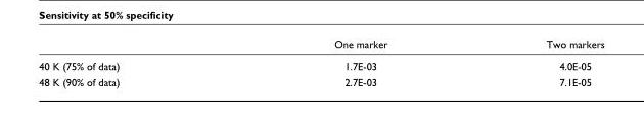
<table><thead><tr><td></td><td>One marker</td><td>Two markers</td></tr></thead><tbody><tr><td>40 K (75% of data)</td><td>1.7E-03</td><td>4.0E-05</td></tr><tr><td>48 K (90% of data)</td><td>2.7E-03</td><td>7.1E-05</td></tr></tbody></table>